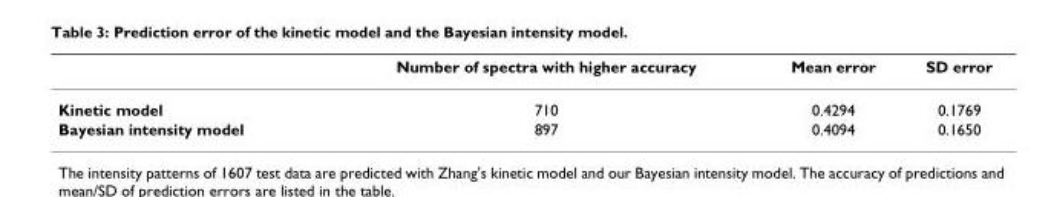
<table><thead><tr><td></td><td>Number of spectra with higher accuracy</td><td>Mean error</td><td>SD error</td></tr></thead><tbody><tr><td>Kinetic model</td><td>710</td><td>0.4294</td><td>0.1769</td></tr><tr><td>Bayesian intensity model</td><td>897</td><td>0.4094</td><td>0.1650</td></tr></tbody></table>